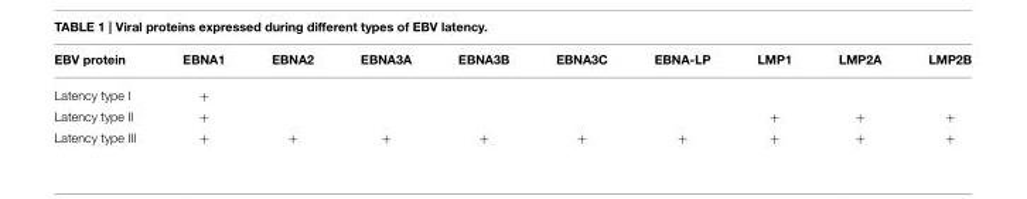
<table><thead><tr><td>EBV protein</td><td>EBNA1</td><td>EBNA2</td><td>EBNA3A</td><td>EBNA3B</td><td>EBNA3C</td><td>EBNA-LP</td><td>LMP1</td><td>LMP2A</td><td>LMP2B</td></tr></thead><tbody><tr><td>Latency type I</td><td>+</td><td></td><td></td><td></td><td></td><td></td><td></td><td></td><td></td></tr><tr><td>Latency type II</td><td>+</td><td></td><td></td><td></td><td></td><td></td><td>+</td><td>+</td><td>+</td></tr><tr><td>Latency type III</td><td>+</td><td>+</td><td>+</td><td>+</td><td>+</td><td>+</td><td>+</td><td>+</td><td>+</td></tr></tbody></table>